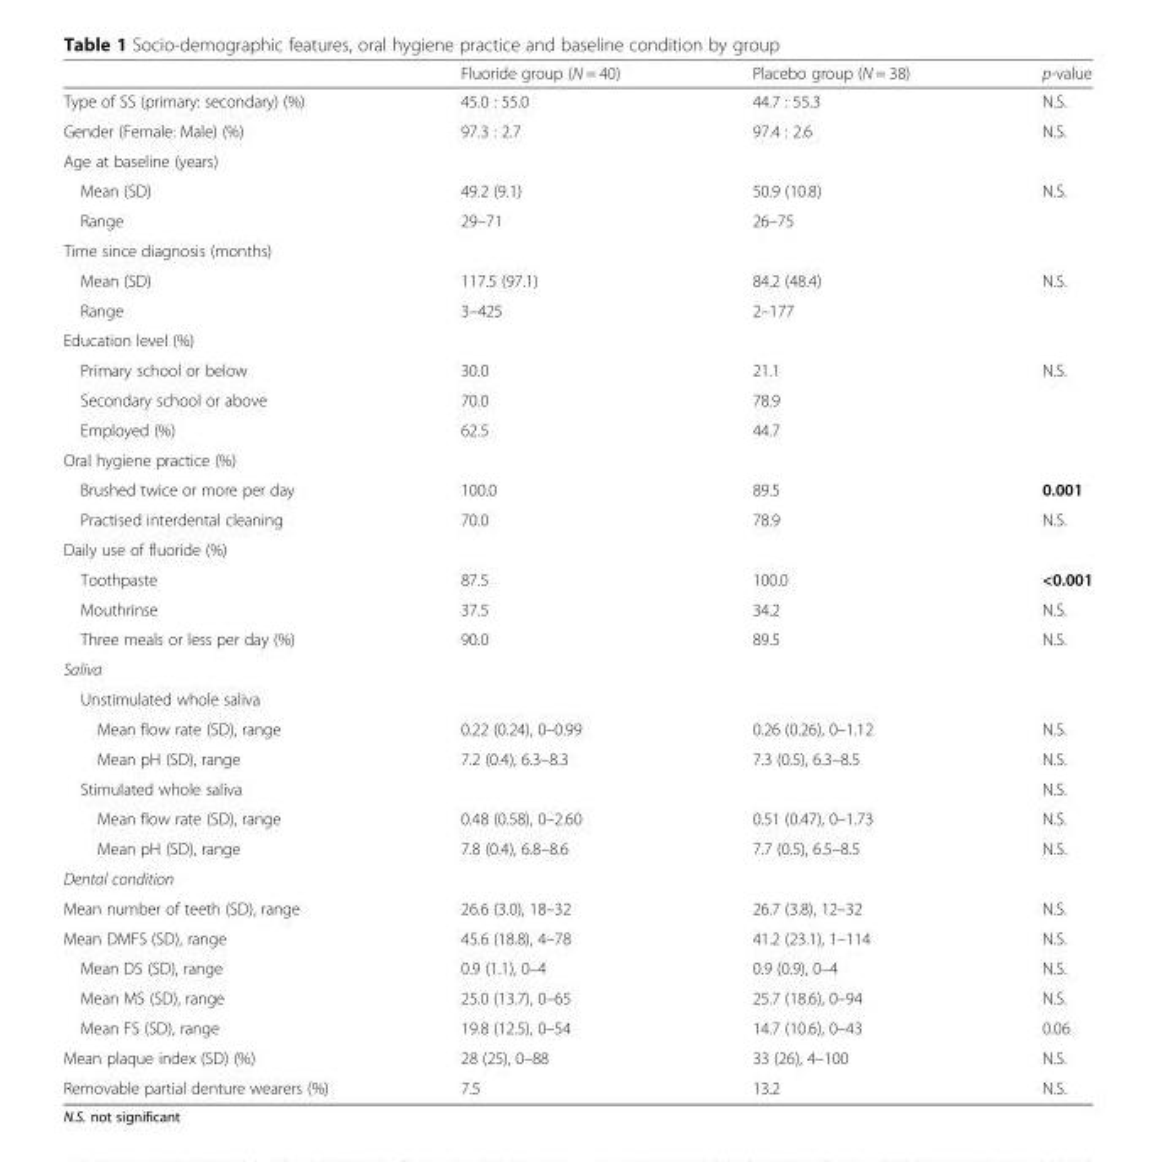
<table><thead><tr><td></td><td>Fluoride group (N = 40)</td><td>Placebo group (N = 38)</td><td>p-value</td></tr></thead><tbody><tr><td>Type of SS (primary: secondary) (%)</td><td>45.0 : 55.0</td><td>44.7 : 55.3</td><td>N.S.</td></tr><tr><td>Gender (Female: Male) (%)</td><td>97.3 : 2.7</td><td>97.4 : 2.6</td><td>N.S.</td></tr><tr><td colspan="4">Age at baseline (years)</td></tr><tr><td>Mean (SD)</td><td>49.2 (9.1)</td><td>50.9 (10.8)</td><td rowspan="2">N.S.</td></tr><tr><td>Range</td><td>29–71</td><td>26–75</td></tr><tr><td colspan="4">Time since diagnosis (months)</td></tr><tr><td>Mean (SD)</td><td>117.5 (97.1)</td><td>84.2 (48.4)</td><td rowspan="2">N.S.</td></tr><tr><td>Range</td><td>3–425</td><td>2–177</td></tr><tr><td colspan="4">Education level (%)</td></tr><tr><td>Primary school or below</td><td>30.0</td><td>21.1</td><td rowspan="3">N.S.</td></tr><tr><td>Secondary school or above</td><td>70.0</td><td>78.9</td></tr><tr><td>Employed (%)</td><td>62.5</td><td>44.7</td></tr><tr><td colspan="4">Oral hygiene practice (%)</td></tr><tr><td>Brushed twice or more per day</td><td>100.0</td><td>89.5</td><td>0.001</td></tr><tr><td>Practised interdental cleaning</td><td>70.0</td><td>78.9</td><td>N.S.</td></tr><tr><td colspan="4">Daily use of fluoride (%)</td></tr><tr><td>Toothpaste</td><td>87.5</td><td>100.0</td><td>&lt;0.001</td></tr><tr><td>Mouthrinse</td><td>37.5</td><td>34.2</td><td>N.S.</td></tr><tr><td>Three meals or less per day (%)</td><td>90.0</td><td>89.5</td><td>N.S.</td></tr><tr><td colspan="4">Saliva</td></tr><tr><td colspan="4">Unstimulated whole saliva</td></tr><tr><td>Mean flow rate (SD), range</td><td>0.22 (0.24), 0–0.99</td><td>0.26 (0.26), 0–1.12</td><td>N.S.</td></tr><tr><td>Mean pH (SD), range</td><td>7.2 (0.4), 6.3–8.3</td><td>7.3 (0.5), 6.3–8.5</td><td>N.S.</td></tr><tr><td colspan="3">Stimulated whole saliva</td><td>N.S.</td></tr><tr><td>Mean flow rate (SD), range</td><td>0.48 (0.58), 0–2.60</td><td>0.51 (0.47), 0–1.73</td><td>N.S.</td></tr><tr><td>Mean pH (SD), range</td><td>7.8 (0.4), 6.8–8.6</td><td>7.7 (0.5), 6.5–8.5</td><td>N.S.</td></tr><tr><td colspan="4">Dental condition</td></tr><tr><td>Mean number of teeth (SD), range</td><td>26.6 (3.0), 18–32</td><td>26.7 (3.8), 12–32</td><td>N.S.</td></tr><tr><td>Mean DMFS (SD), range</td><td>45.6 (18.8), 4–78</td><td>41.2 (23.1), 1–114</td><td>N.S.</td></tr><tr><td>Mean DS (SD), range</td><td>0.9 (1.1), 0–4</td><td>0.9 (0.9), 0–4</td><td>N.S.</td></tr><tr><td>Mean MS (SD), range</td><td>25.0 (13.7), 0–65</td><td>25.7 (18.6), 0–94</td><td>N.S.</td></tr><tr><td>Mean FS (SD), range</td><td>19.8 (12.5), 0–54</td><td>14.7 (10.6), 0–43</td><td>0.06</td></tr><tr><td>Mean plaque index (SD) (%)</td><td>28 (25), 0–88</td><td>33 (26), 4–100</td><td>N.S.</td></tr><tr><td>Removable partial denture wearers (%)</td><td>7.5</td><td>13.2</td><td>N.S.</td></tr></tbody></table>